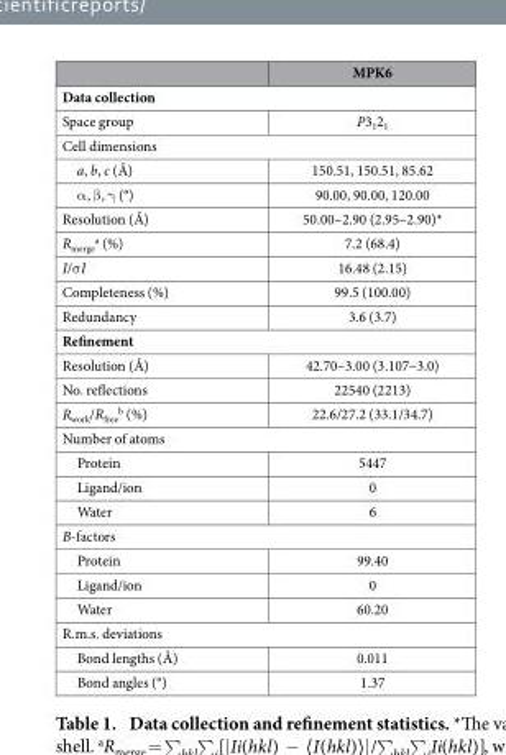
<table><thead><tr><td></td><td>MPK6</td></tr></thead><tbody><tr><td colspan="2">Data collection</td></tr><tr><td>Space group</td><td>P3<sub>1</sub>2<sub>1</sub></td></tr><tr><td colspan="2">Cell dimensions</td></tr><tr><td>a, b, c (Å)</td><td>150.51, 150.51, 85.62</td></tr><tr><td>α , β , γ (°)</td><td>90.00, 90.00, 120.00</td></tr><tr><td>Resolution (Å)</td><td>50.00–2.90 (2.95–2.90)*</td></tr><tr><td>R<sub>merge</sub> <sup>a</sup> (%)</td><td>7.2 (68.4)</td></tr><tr><td>I/σ I</td><td>16.48 (2.15)</td></tr><tr><td>Completeness (%)</td><td>99.5 (100.00)</td></tr><tr><td>Redundancy</td><td>3.6 (3.7)</td></tr><tr><td colspan="2">Refinement</td></tr><tr><td>Resolution (Å)</td><td>42.70–3.00 (3.107–3.0)</td></tr><tr><td>No. reflections</td><td>22540 (2213)</td></tr><tr><td>R<sub>work</sub>/R<sub>free</sub> <sup>b</sup> (%)</td><td>22.6/27.2 (33.1/34.7)</td></tr><tr><td colspan="2">Number of atoms</td></tr><tr><td>Protein</td><td>5447</td></tr><tr><td>Ligand/ion</td><td>0</td></tr><tr><td>Water</td><td>6</td></tr><tr><td colspan="2">B-factors</td></tr><tr><td>Protein</td><td>99.40</td></tr><tr><td>Ligand/ion</td><td>0</td></tr><tr><td>Water</td><td>60.20</td></tr><tr><td colspan="2">R.m.s. deviations</td></tr><tr><td>Bond lengths (Å)</td><td>0.011</td></tr><tr><td>Bond angles (°)</td><td>1.37</td></tr></tbody></table>